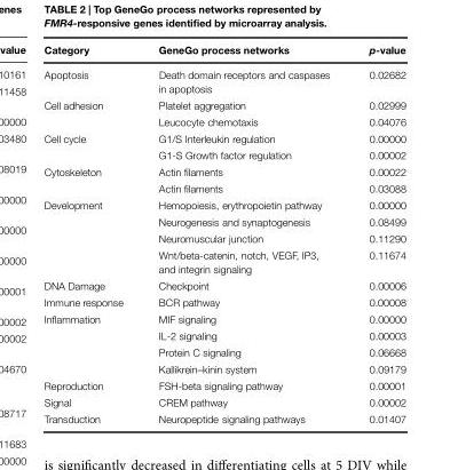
<table><thead><tr><td>Category</td><td>GeneGo process networks</td><td>p-value</td></tr></thead><tbody><tr><td>Apoptosis</td><td>Death domain receptors and caspases in apoptosis</td><td>0.02682</td></tr><tr><td rowspan="2">Cell adhesion</td><td>Platelet aggregation</td><td>0.02999</td></tr><tr><td>Leucocyte chemotaxis</td><td>0.04076</td></tr><tr><td rowspan="2">Cell cycle</td><td>G1/S Interleukin regulation</td><td>0.00000</td></tr><tr><td>G1-S Growth factor regulation</td><td>0.00002</td></tr><tr><td rowspan="2">Cytoskeleton</td><td>Actin filaments</td><td>0.00022</td></tr><tr><td>Actin filaments</td><td>0.03088</td></tr><tr><td rowspan="4">Development</td><td>Hemopoiesis, erythropoietin pathway</td><td>0.00000</td></tr><tr><td>Neurogenesis and synaptogenesis</td><td>0.08499</td></tr><tr><td>Neuromuscular junction</td><td>0.11290</td></tr><tr><td>Wnt/beta-catenin, notch, VEGF, IP3, and integrin signaling</td><td>0.11674</td></tr><tr><td>DNA Damage</td><td>Checkpoint</td><td>0.00006</td></tr><tr><td>Immune response</td><td>BCR pathway</td><td>0.00008</td></tr><tr><td rowspan="4">Inflammation</td><td>MIF signaling</td><td>0.00000</td></tr><tr><td>IL-2 signaling</td><td>0.00003</td></tr><tr><td>Protein C signaling</td><td>0.06668</td></tr><tr><td>Kallikrein–kinin system</td><td>0.09179</td></tr><tr><td>Reproduction</td><td>FSH-beta signaling pathway</td><td>0.00001</td></tr><tr><td>Signal</td><td>CREM pathway</td><td>0.00002</td></tr><tr><td>Transduction</td><td>Neuropeptide signaling pathways</td><td>0.01407</td></tr></tbody></table>